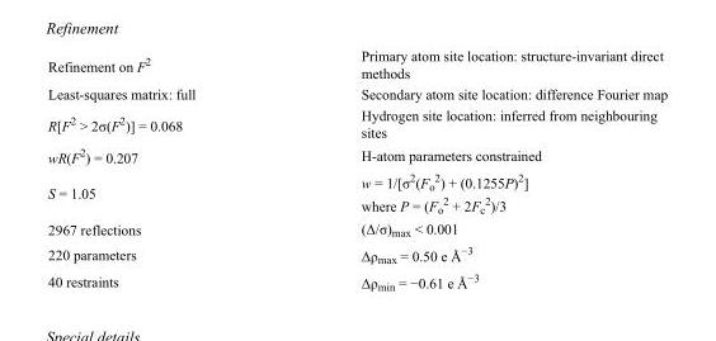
<table><tbody><tr><td>Refinement on F<sup>2</sup></td><td>Primary atom site location: structure-invariant direct methods</td></tr><tr><td>Least-squares matrix: full</td><td>Secondary atom site location: difference Fourier map</td></tr><tr><td>R[F<sup>2</sup> &gt; 2σ(F<sup>2</sup>)] = 0.068</td><td>Hydrogen site location: inferred from neighbouring sites</td></tr><tr><td>wR(F<sup>2</sup>) = 0.207</td><td>H-atom parameters constrained</td></tr><tr><td>S = 1.05</td><td>w = 1/[σ<sup>2</sup>(F<sub>o</sub> <sup>2</sup>) + (0.1255P)<sup>2</sup>] where P = (F<sub>o</sub> <sup>2</sup> + 2F<sub>c</sub> <sup>2</sup>)/3</td></tr><tr><td>2967 reflections</td><td>(Δ/σ)<sub>max</sub> &lt; 0.001</td></tr><tr><td>220 parameters</td><td>Δρ<sub>max</sub> = 0.50 e Å<sup>−3</sup></td></tr><tr><td>40 restraints</td><td>Δρ<sub>min</sub> = −0.61 e Å<sup>−3</sup></td></tr></tbody></table>